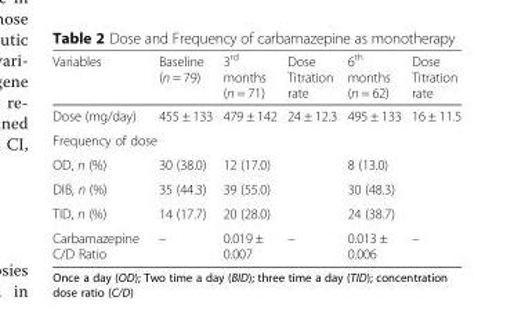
<table><thead><tr><td>Variables</td><td>Baseline (n = 79)</td><td>3<sup>rd</sup> months (n = 71)</td><td>Dose Titration rate</td><td>6<sup>th</sup> months (n = 62)</td><td>Dose Titration rate</td></tr></thead><tbody><tr><td>Dose (mg/day)</td><td>455 ± 133</td><td>479 ± 142</td><td>24 ± 12.3</td><td>495 ± 133</td><td>16 ± 11.5</td></tr><tr><td colspan="6">Frequency of dose</td></tr><tr><td>OD, n (%)</td><td>30 (38.0)</td><td>12 (17.0)</td><td></td><td>8 (13.0)</td><td></td></tr><tr><td>DIB, n (%)</td><td>35 (44.3)</td><td>39 (55.0)</td><td></td><td>30 (48.3)</td><td></td></tr><tr><td>TID, n (%)</td><td>14 (17.7)</td><td>20 (28.0)</td><td></td><td>24 (38.7)</td><td></td></tr><tr><td>Carbamazepine C/D Ratio</td><td>–</td><td>0.019 ± 0.007</td><td>–</td><td>0.013 ± 0.006</td><td>–</td></tr></tbody></table>